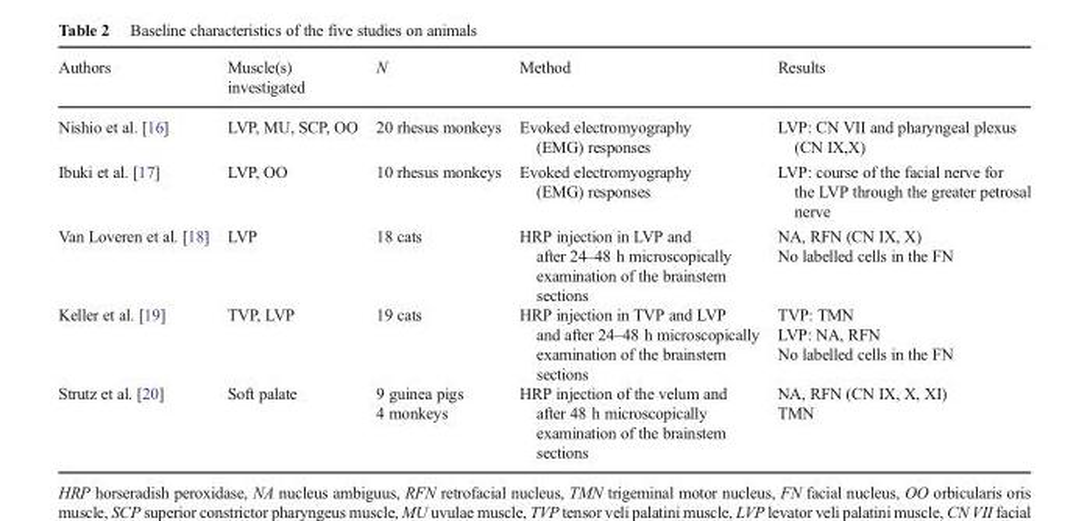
<table><thead><tr><td>Authors</td><td>Muscle(s) investigated</td><td>N</td><td>Method</td><td>Results</td></tr></thead><tbody><tr><td>Nishio et al. [16]</td><td>LVP, MU, SCP, OO</td><td>20 rhesus monkeys</td><td>Evoked electromyography (EMG) responses</td><td>LVP: CN VII and pharyngeal plexus (CN IX,X)</td></tr><tr><td>Ibuki et al. [17]</td><td>LVP, OO</td><td>10 rhesus monkeys</td><td>Evoked electromyography (EMG) responses</td><td>LVP: course of the facial nerve for the LVP through the greater petrosal nerve</td></tr><tr><td>Van Loveren et al. [18]</td><td>LVP</td><td>18 cats</td><td>HRP injection in LVP and after 24–48 h microscopically examination of the brainstem sections</td><td>NA, RFN (CN IX, X) No labelled cells in the FN</td></tr><tr><td>Keller et al. [19]</td><td>TVP, LVP</td><td>19 cats</td><td>HRP injection in TVP and LVP and after 24–48 h microscopically examination of the brainstem sections</td><td>TVP: TMN LVP: NA, RFN No labelled cells in the FN</td></tr><tr><td>Strutz et al. [20]</td><td>Soft palate</td><td>9 guinea pigs 4 monkeys</td><td>HRP injection of the velum and after 48 h microscopically examination of the brainstem sections</td><td>NA, RFN (CN IX, X, XI) TMN</td></tr></tbody></table>